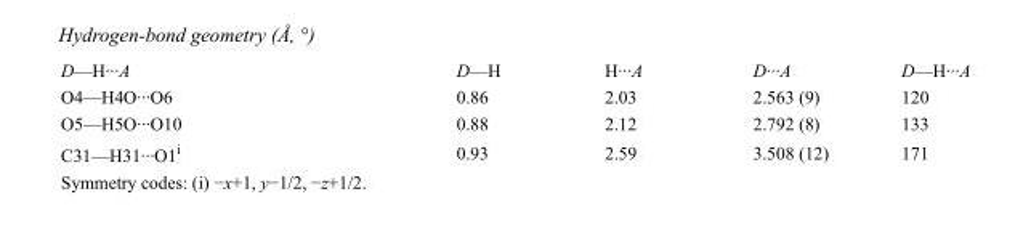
<table><tbody><tr><td>D—H···A</td><td>D—H</td><td>H···A</td><td>D···A</td><td>D—H···A</td></tr><tr><td>O4—H4O···O6</td><td>0.86</td><td>2.03</td><td>2.563 (9)</td><td>120</td></tr><tr><td>O5—H5O···O10</td><td>0.88</td><td>2.12</td><td>2.792 (8)</td><td>133</td></tr><tr><td>C31—H31···O1<sup>i</sup></td><td>0.93</td><td>2.59</td><td>3.508 (12)</td><td>171</td></tr></tbody></table>